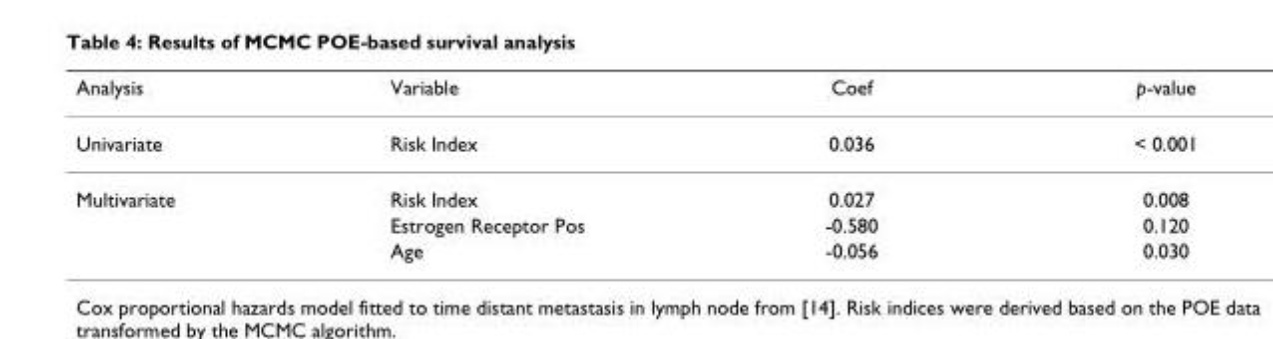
<table><thead><tr><td>Analysis</td><td>Variable</td><td>Coef</td><td>p-value</td></tr></thead><tbody><tr><td>Univariate</td><td>Risk Index</td><td>0.036</td><td>&lt; 0.001</td></tr><tr><td rowspan="3">Multivariate</td><td>Risk Index</td><td>0.027</td><td>0.008</td></tr><tr><td>Estrogen Receptor Pos</td><td>-0.580</td><td>0.120</td></tr><tr><td>Age</td><td>-0.056</td><td>0.030</td></tr></tbody></table>